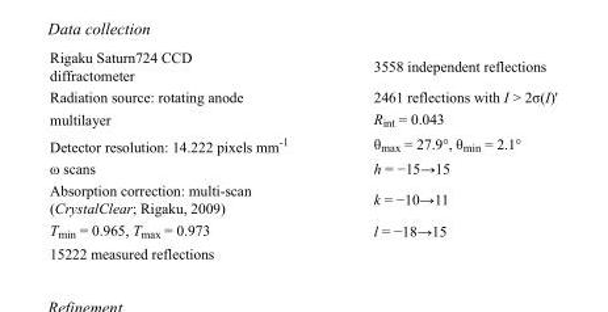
<table><tbody><tr><td>Rigaku Saturn724 CCD diffractometer</td><td>3558 independent reflections</td></tr><tr><td>Radiation source: rotating anode</td><td>2461 reflections with I &gt; 2σ(I)&#x27;</td></tr><tr><td>multilayer</td><td>R<sub>int</sub> = 0.043</td></tr><tr><td>Detector resolution: 14.222 pixels mm<sup>-1</sup></td><td>θ<sub>max</sub> = 27.9°, θ<sub>min</sub> = 2.1°</td></tr><tr><td>ω scans</td><td>h = −15→15</td></tr><tr><td>Absorption correction: multi-scan (CrystalClear; Rigaku, 2009)</td><td>k = −10→11</td></tr><tr><td>T<sub>min</sub> = 0.965, T<sub>max</sub> = 0.973</td><td>l = −18→15</td></tr><tr><td>15222 measured reflections</td><td></td></tr></tbody></table>